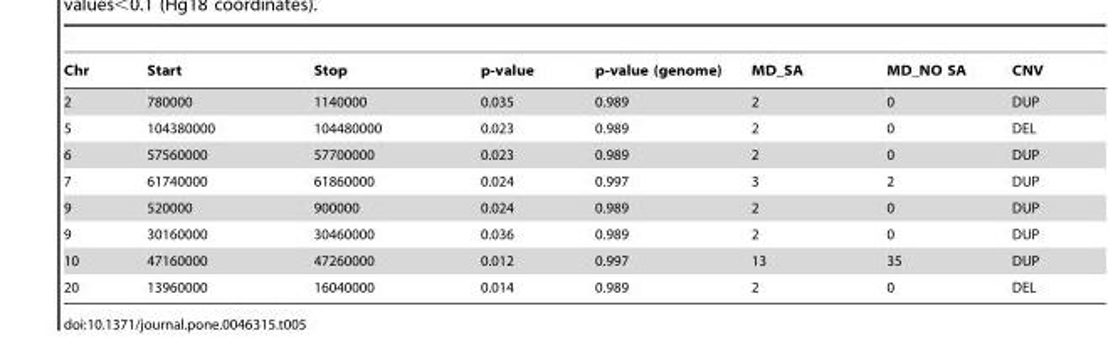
<table><thead><tr><td>Chr</td><td>Start</td><td>Stop</td><td>p-value</td><td>p-value (genome)</td><td>MD_SA</td><td>MD_NO SA</td><td>CNV</td></tr></thead><tbody><tr><td>2</td><td>780000</td><td>1140000</td><td>0.035</td><td>0.989</td><td>2</td><td>0</td><td>DUP</td></tr><tr><td>5</td><td>104380000</td><td>104480000</td><td>0.023</td><td>0.989</td><td>2</td><td>0</td><td>DEL</td></tr><tr><td>6</td><td>57560000</td><td>57700000</td><td>0.023</td><td>0.989</td><td>2</td><td>0</td><td>DUP</td></tr><tr><td>7</td><td>61740000</td><td>61860000</td><td>0.024</td><td>0.997</td><td>3</td><td>2</td><td>DUP</td></tr><tr><td>9</td><td>520000</td><td>900000</td><td>0.024</td><td>0.989</td><td>2</td><td>0</td><td>DUP</td></tr><tr><td>9</td><td>30160000</td><td>30460000</td><td>0.036</td><td>0.989</td><td>2</td><td>0</td><td>DUP</td></tr><tr><td>10</td><td>47160000</td><td>47260000</td><td>0.012</td><td>0.997</td><td>13</td><td>35</td><td>DUP</td></tr><tr><td>20</td><td>13960000</td><td>16040000</td><td>0.014</td><td>0.989</td><td>2</td><td>0</td><td>DEL</td></tr></tbody></table>